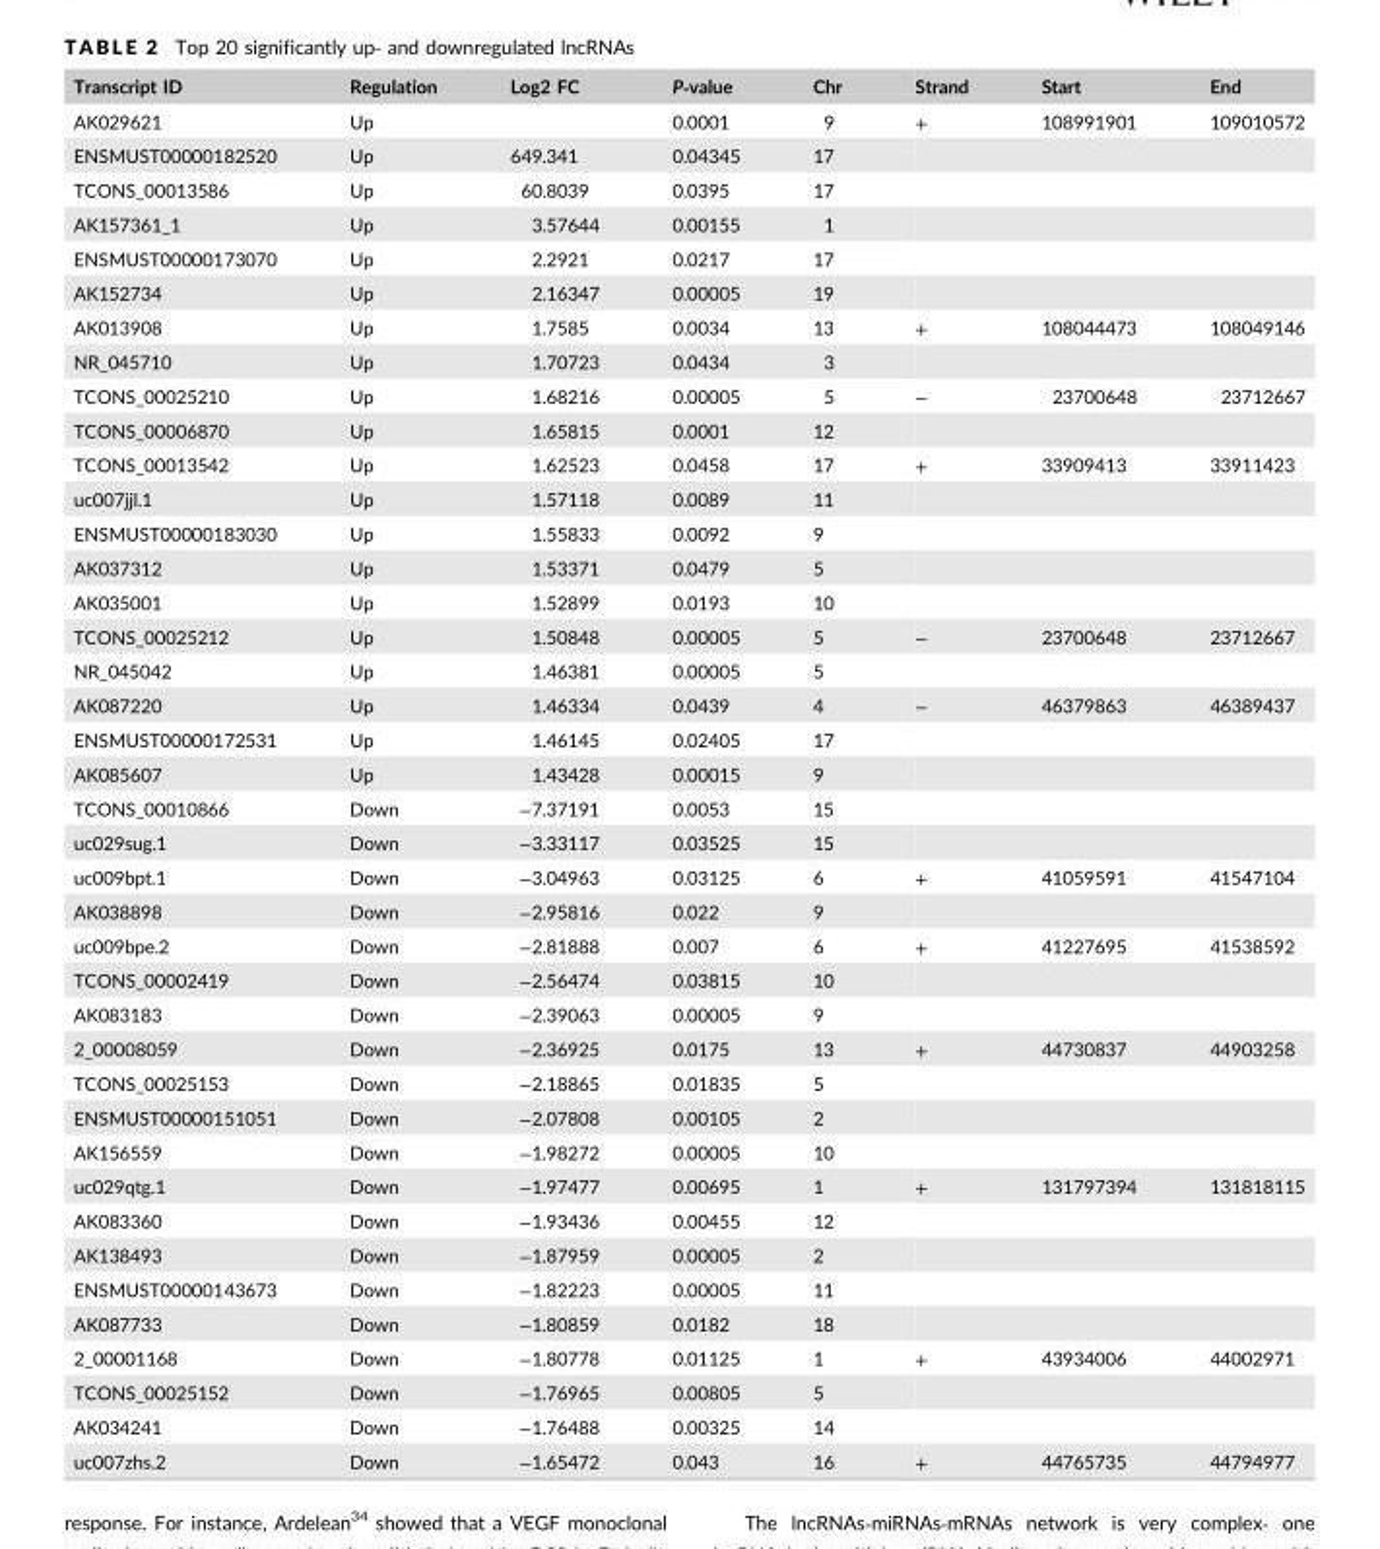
<table><thead><tr><td>Transcript ID</td><td>Regulation</td><td>Log2 FC</td><td>P‐value</td><td>Chr</td><td>Strand</td><td>Start</td><td>End</td></tr></thead><tbody><tr><td>AK029621</td><td>Up</td><td></td><td>0.0001</td><td>9</td><td>+</td><td>108991901</td><td>109010572</td></tr><tr><td>ENSMUST00000182520</td><td>Up</td><td>649.341</td><td>0.04345</td><td>17</td><td></td><td></td><td></td></tr><tr><td>TCONS_00013586</td><td>Up</td><td>60.8039</td><td>0.0395</td><td>17</td><td></td><td></td><td></td></tr><tr><td>AK157361_1</td><td>Up</td><td>3.57644</td><td>0.00155</td><td>1</td><td></td><td></td><td></td></tr><tr><td>ENSMUST00000173070</td><td>Up</td><td>2.2921</td><td>0.0217</td><td>17</td><td></td><td></td><td></td></tr><tr><td>AK152734</td><td>Up</td><td>2.16347</td><td>0.00005</td><td>19</td><td></td><td></td><td></td></tr><tr><td>AK013908</td><td>Up</td><td>1.7585</td><td>0.0034</td><td>13</td><td>+</td><td>108044473</td><td>108049146</td></tr><tr><td>NR_045710</td><td>Up</td><td>1.70723</td><td>0.0434</td><td>3</td><td></td><td></td><td></td></tr><tr><td>TCONS_00025210</td><td>Up</td><td>1.68216</td><td>0.00005</td><td>5</td><td>−</td><td>23700648</td><td>23712667</td></tr><tr><td>TCONS_00006870</td><td>Up</td><td>1.65815</td><td>0.0001</td><td>12</td><td></td><td></td><td></td></tr><tr><td>TCONS_00013542</td><td>Up</td><td>1.62523</td><td>0.0458</td><td>17</td><td>+</td><td>33909413</td><td>33911423</td></tr><tr><td>uc007jjl.1</td><td>Up</td><td>1.57118</td><td>0.0089</td><td>11</td><td></td><td></td><td></td></tr><tr><td>ENSMUST00000183030</td><td>Up</td><td>1.55833</td><td>0.0092</td><td>9</td><td></td><td></td><td></td></tr><tr><td>AK037312</td><td>Up</td><td>1.53371</td><td>0.0479</td><td>5</td><td></td><td></td><td></td></tr><tr><td>AK035001</td><td>Up</td><td>1.52899</td><td>0.0193</td><td>10</td><td></td><td></td><td></td></tr><tr><td>TCONS_00025212</td><td>Up</td><td>1.50848</td><td>0.00005</td><td>5</td><td>−</td><td>23700648</td><td>23712667</td></tr><tr><td>NR_045042</td><td>Up</td><td>1.46381</td><td>0.00005</td><td>5</td><td></td><td></td><td></td></tr><tr><td>AK087220</td><td>Up</td><td>1.46334</td><td>0.0439</td><td>4</td><td>−</td><td>46379863</td><td>46389437</td></tr><tr><td>ENSMUST00000172531</td><td>Up</td><td>1.46145</td><td>0.02405</td><td>17</td><td></td><td></td><td></td></tr><tr><td>AK085607</td><td>Up</td><td>1.43428</td><td>0.00015</td><td>9</td><td></td><td></td><td></td></tr><tr><td>TCONS_00010866</td><td>Down</td><td>−7.37191</td><td>0.0053</td><td>15</td><td></td><td></td><td></td></tr><tr><td>uc029sug.1</td><td>Down</td><td>−3.33117</td><td>0.03525</td><td>15</td><td></td><td></td><td></td></tr><tr><td>uc009bpt.1</td><td>Down</td><td>−3.04963</td><td>0.03125</td><td>6</td><td>+</td><td>41059591</td><td>41547104</td></tr><tr><td>AK038898</td><td>Down</td><td>−2.95816</td><td>0.022</td><td>9</td><td></td><td></td><td></td></tr><tr><td>uc009bpe.2</td><td>Down</td><td>−2.81888</td><td>0.007</td><td>6</td><td>+</td><td>41227695</td><td>41538592</td></tr><tr><td>TCONS_00002419</td><td>Down</td><td>−2.56474</td><td>0.03815</td><td>10</td><td></td><td></td><td></td></tr><tr><td>AK083183</td><td>Down</td><td>−2.39063</td><td>0.00005</td><td>9</td><td></td><td></td><td></td></tr><tr><td>2_00008059</td><td>Down</td><td>−2.36925</td><td>0.0175</td><td>13</td><td>+</td><td>44730837</td><td>44903258</td></tr><tr><td>TCONS_00025153</td><td>Down</td><td>−2.18865</td><td>0.01835</td><td>5</td><td></td><td></td><td></td></tr><tr><td>ENSMUST00000151051</td><td>Down</td><td>−2.07808</td><td>0.00105</td><td>2</td><td></td><td></td><td></td></tr><tr><td>AK156559</td><td>Down</td><td>−1.98272</td><td>0.00005</td><td>10</td><td></td><td></td><td></td></tr><tr><td>uc029qtg.1</td><td>Down</td><td>−1.97477</td><td>0.00695</td><td>1</td><td>+</td><td>131797394</td><td>131818115</td></tr><tr><td>AK083360</td><td>Down</td><td>−1.93436</td><td>0.00455</td><td>12</td><td></td><td></td><td></td></tr><tr><td>AK138493</td><td>Down</td><td>−1.87959</td><td>0.00005</td><td>2</td><td></td><td></td><td></td></tr><tr><td>ENSMUST00000143673</td><td>Down</td><td>−1.82223</td><td>0.00005</td><td>11</td><td></td><td></td><td></td></tr><tr><td>AK087733</td><td>Down</td><td>−1.80859</td><td>0.0182</td><td>18</td><td></td><td></td><td></td></tr><tr><td>2_00001168</td><td>Down</td><td>−1.80778</td><td>0.01125</td><td>1</td><td>+</td><td>43934006</td><td>44002971</td></tr><tr><td>TCONS_00025152</td><td>Down</td><td>−1.76965</td><td>0.00805</td><td>5</td><td></td><td></td><td></td></tr><tr><td>AK034241</td><td>Down</td><td>−1.76488</td><td>0.00325</td><td>14</td><td></td><td></td><td></td></tr><tr><td>uc007zhs.2</td><td>Down</td><td>−1.65472</td><td>0.043</td><td>16</td><td>+</td><td>44765735</td><td>44794977</td></tr></tbody></table>